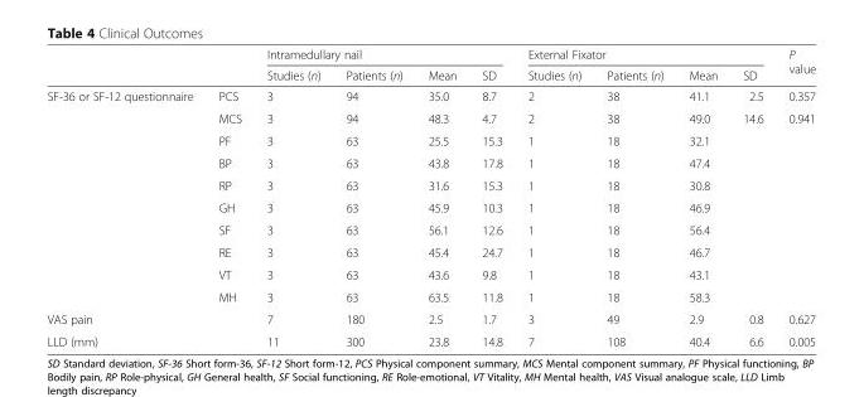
<table><thead><tr><td rowspan="2"></td><td rowspan="2"></td><td colspan="4">Intramedullary nail</td><td colspan="4">External Fixator</td><td rowspan="2">P value</td></tr><tr><td>Studies (n)</td><td>Patients (n)</td><td>Mean</td><td>SD</td><td>Studies (n)</td><td>Patients (n)</td><td>Mean</td><td>SD</td></tr></thead><tbody><tr><td rowspan="10">SF-36 or SF-12 questionnaire</td><td>PCS</td><td>3</td><td>94</td><td>35.0</td><td>8.7</td><td>2</td><td>38</td><td>41.1</td><td>2.5</td><td>0.357</td></tr><tr><td>MCS</td><td>3</td><td>94</td><td>48.3</td><td>4.7</td><td>2</td><td>38</td><td>49.0</td><td>14.6</td><td>0.941</td></tr><tr><td>PF</td><td>3</td><td>63</td><td>25.5</td><td>15.3</td><td>1</td><td>18</td><td>32.1</td><td></td><td></td></tr><tr><td>BP</td><td>3</td><td>63</td><td>43.8</td><td>17.8</td><td>1</td><td>18</td><td>47.4</td><td></td><td></td></tr><tr><td>RP</td><td>3</td><td>63</td><td>31.6</td><td>15.3</td><td>1</td><td>18</td><td>30.8</td><td></td><td></td></tr><tr><td>GH</td><td>3</td><td>63</td><td>45.9</td><td>10.3</td><td>1</td><td>18</td><td>46.9</td><td></td><td></td></tr><tr><td>SF</td><td>3</td><td>63</td><td>56.1</td><td>12.6</td><td>1</td><td>18</td><td>56.4</td><td></td><td></td></tr><tr><td>RE</td><td>3</td><td>63</td><td>45.4</td><td>24.7</td><td>1</td><td>18</td><td>46.7</td><td></td><td></td></tr><tr><td>VT</td><td>3</td><td>63</td><td>43.6</td><td>9.8</td><td>1</td><td>18</td><td>43.1</td><td></td><td></td></tr><tr><td>MH</td><td>3</td><td>63</td><td>63.5</td><td>11.8</td><td>1</td><td>18</td><td>58.3</td><td></td><td></td></tr><tr><td colspan="2">VAS pain</td><td>7</td><td>180</td><td>2.5</td><td>1.7</td><td>3</td><td>49</td><td>2.9</td><td>0.8</td><td>0.627</td></tr><tr><td colspan="2">LLD (mm)</td><td>11</td><td>300</td><td>23.8</td><td>14.8</td><td>7</td><td>108</td><td>40.4</td><td>6.6</td><td>0.005</td></tr></tbody></table>